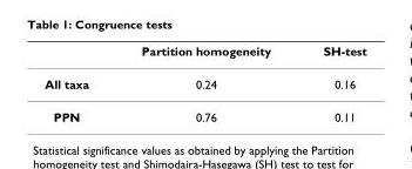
<table><thead><tr><td></td><td>Partition homogeneity</td><td>SH-test</td></tr></thead><tbody><tr><td>All taxa</td><td>0.24</td><td>0.16</td></tr><tr><td>PPN</td><td>0.76</td><td>0.11</td></tr></tbody></table>